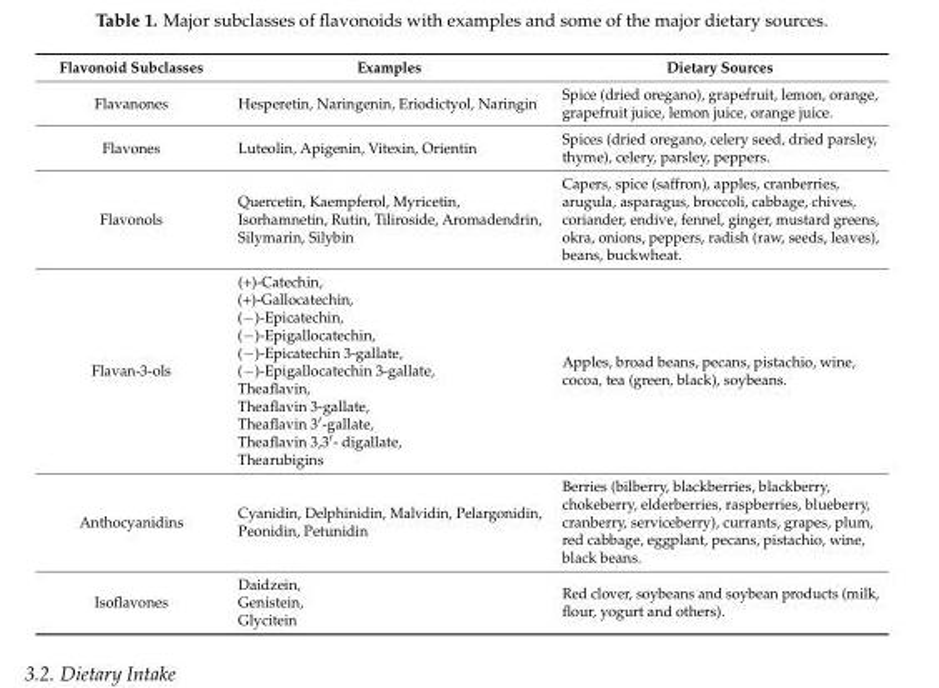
<table><thead><tr><td>Flavonoid Subclasses</td><td>Examples</td><td>Dietary Sources</td></tr></thead><tbody><tr><td>Flavanones</td><td>Hesperetin, Naringenin, Eriodictyol, Naringin</td><td>Spice (dried oregano), grapefruit, lemon, orange, grapefruit juice, lemon juice, orange juice.</td></tr><tr><td>Flavones</td><td>Luteolin, Apigenin, Vitexin, Orientin</td><td>Spices (dried oregano, celery seed, dried parsley, thyme), celery, parsley, peppers.</td></tr><tr><td>Flavonols</td><td>Quercetin, Kaempferol, Myricetin, Isorhamnetin, Rutin, Tiliroside, Aromadendrin, Silymarin, Silybin</td><td>Capers, spice (saffron), apples, cranberries, arugula, asparagus, broccoli, cabbage, chives, coriander, endive, fennel, ginger, mustard greens, okra, onions, peppers, radish (raw, seeds, leaves), beans, buckwheat.</td></tr><tr><td>Flavan-3-ols</td><td>(+)-Catechin, (+)-Gallocatechin, (−)-Epicatechin, (−)-Epigallocatechin, (−)-Epicatechin 3-gallate, (−)-Epigallocatechin 3-gallate, Theaflavin, Theaflavin 3-gallate, Theaflavin 3′-gallate, Theaflavin 3,3′- digallate, Thearubigins</td><td>Apples, broad beans, pecans, pistachio, wine, cocoa, tea (green, black), soybeans.</td></tr><tr><td>Anthocyanidins</td><td>Cyanidin, Delphinidin, Malvidin, Pelargonidin, Peonidin, Petunidin</td><td>Berries (bilberry, blackberries, blackberry, chokeberry, elderberries, raspberries, blueberry, cranberry, serviceberry), currants, grapes, plum, red cabbage, eggplant, pecans, pistachio, wine, black beans.</td></tr><tr><td>Isoflavones</td><td>Daidzein, Genistein, Glycitein</td><td>Red clover, soybeans and soybean products (milk, flour, yogurt and others).</td></tr></tbody></table>